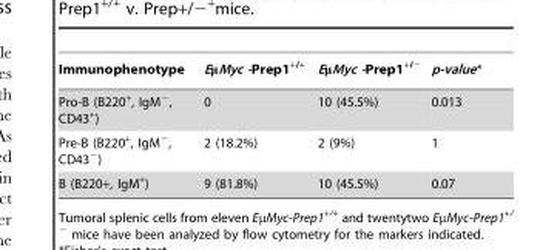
<table><thead><tr><td>Immunophenotype</td><td>EμMyc -Prep1<sup>+/+</sup></td><td>EμMyc -Prep1<sup>+/−</sup></td><td>p-value*</td></tr></thead><tbody><tr><td>Pro-B (B220<sup>+</sup>, IgM<sup>−</sup>, CD43<sup>+</sup>)</td><td>0</td><td>10 (45.5%)</td><td>0.013</td></tr><tr><td>Pre-B (B220<sup>+</sup>, IgM<sup>−</sup>, CD43<sup>−</sup>)</td><td>2 (18.2%)</td><td>2 (9%)</td><td>1</td></tr><tr><td>B (B220+, IgM<sup>+</sup>)</td><td>9 (81.8%)</td><td>10 (45.5%)</td><td>0.07</td></tr></tbody></table>